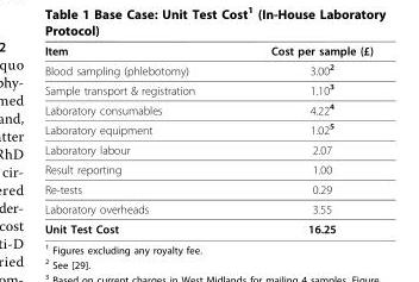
<table><thead><tr><td>Item</td><td>Cost per sample (£)</td></tr></thead><tbody><tr><td>Blood sampling (phlebotomy)</td><td>3.00<sup>2</sup></td></tr><tr><td>Sample transport &amp; registration</td><td>1.10<sup>3</sup></td></tr><tr><td>Laboratory consumables</td><td>4.22<sup>4</sup></td></tr><tr><td>Laboratory equipment</td><td>1.02<sup>5</sup></td></tr><tr><td>Laboratory labour</td><td>2.07</td></tr><tr><td>Result reporting</td><td>1.00</td></tr><tr><td>Re-tests</td><td>0.29</td></tr><tr><td>Laboratory overheads</td><td>3.55</td></tr><tr><td>Unit Test Cost</td><td>16.25</td></tr></tbody></table>